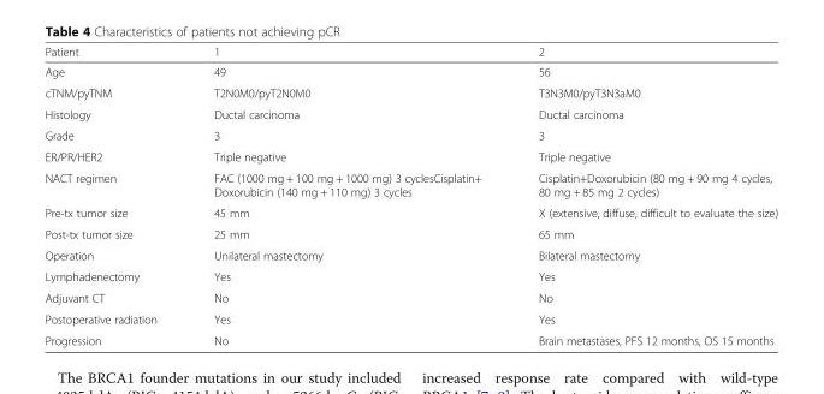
<table><thead><tr><td>Patient</td><td>1</td><td>2</td></tr></thead><tbody><tr><td>Age</td><td>49</td><td>56</td></tr><tr><td>cTNM/pyTNM</td><td>T2N0M0/pyT2N0M0</td><td>T3N3M0/pyT3N3aM0</td></tr><tr><td>Histology</td><td>Ductal carcinoma</td><td>Ductal carcinoma</td></tr><tr><td>Grade</td><td>3</td><td>3</td></tr><tr><td>ER/PR/HER2</td><td>Triple negative</td><td>Triple negative</td></tr><tr><td>NACT regimen</td><td>FAC (1000 mg + 100 mg + 1000 mg) 3 cyclesCisplatin+ Doxorubicin (140 mg + 110 mg) 3 cycles</td><td>Cisplatin+Doxorubicin (80 mg + 90 mg 4 cycles, 80 mg + 85 mg 2 cycles)</td></tr><tr><td>Pre-tx tumor size</td><td>45 mm</td><td>X (extensive, diffuse, difficult to evaluate the size)</td></tr><tr><td>Post-tx tumor size</td><td>25 mm</td><td>65 mm</td></tr><tr><td>Operation</td><td>Unilateral mastectomy</td><td>Bilateral mastectomy</td></tr><tr><td>Lymphadenectomy</td><td>Yes</td><td>Yes</td></tr><tr><td>Adjuvant CT</td><td>No</td><td>No</td></tr><tr><td>Postoperative radiation</td><td>Yes</td><td>Yes</td></tr><tr><td>Progression</td><td>No</td><td>Brain metastases, PFS 12 months, OS 15 months</td></tr></tbody></table>